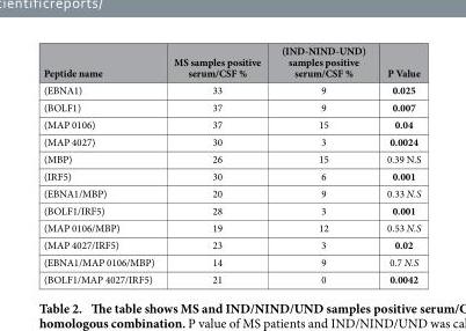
<table><thead><tr><td>Peptide name</td><td>MS samples positive serum/CSF %</td><td>(IND-NIND-UND) samples positive serum/CSF %</td><td>P Value</td></tr></thead><tbody><tr><td>(EBNA1)</td><td>33</td><td>9</td><td>0.025</td></tr><tr><td>(BOLF1)</td><td>37</td><td>9</td><td>0.007</td></tr><tr><td>(MAP 0106)</td><td>37</td><td>15</td><td>0.04</td></tr><tr><td>(MAP 4027)</td><td>30</td><td>3</td><td>0.0024</td></tr><tr><td>(MBP)</td><td>26</td><td>15</td><td>0.39 N.S</td></tr><tr><td>(IRF5)</td><td>30</td><td>6</td><td>0.001</td></tr><tr><td>(EBNA1/MBP)</td><td>20</td><td>9</td><td>0.33 N.S</td></tr><tr><td>(BOLF1/IRF5)</td><td>28</td><td>3</td><td>0.001</td></tr><tr><td>(MAP 0106/MBP)</td><td>19</td><td>12</td><td>0.53 N.S</td></tr><tr><td>(MAP 4027/IRF5)</td><td>23</td><td>3</td><td>0.02</td></tr><tr><td>(EBNA1/MAP 0106/MBP)</td><td>14</td><td>9</td><td>0.7 N.S</td></tr><tr><td>(BOLF1/MAP 4027/IRF5)</td><td>21</td><td>0</td><td>0.0042</td></tr></tbody></table>